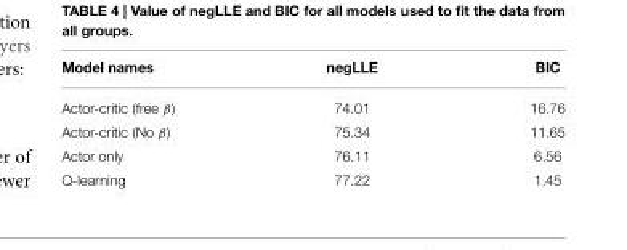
<table><thead><tr><td>Model names</td><td>negLLE</td><td>BIC</td></tr></thead><tbody><tr><td>Actor-critic (free β)</td><td>74.01</td><td>16.76</td></tr><tr><td>Actor-critic (No β)</td><td>75.34</td><td>11.65</td></tr><tr><td>Actor only</td><td>76.11</td><td>6.56</td></tr><tr><td>Q-learning</td><td>77.22</td><td>1.45</td></tr></tbody></table>